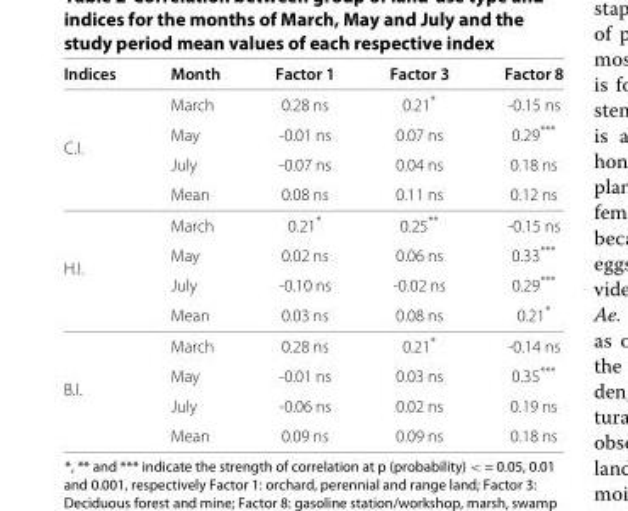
<table><thead><tr><td>Indices</td><td>Month</td><td>Factor 1</td><td>Factor 3</td><td>Factor 8</td></tr></thead><tbody><tr><td rowspan="4">C.I.</td><td>March</td><td>0.28 ns</td><td>0.21*</td><td>-0.15 ns</td></tr><tr><td>May</td><td>-0.01 ns</td><td>0.07 ns</td><td>0.29***</td></tr><tr><td>July</td><td>-0.07 ns</td><td>0.04 ns</td><td>0.18 ns</td></tr><tr><td>Mean</td><td>0.08 ns</td><td>0.11 ns</td><td>0.12 ns</td></tr><tr><td rowspan="4">H.I.</td><td>March</td><td>0.21*</td><td>0.25**</td><td>-0.15 ns</td></tr><tr><td>May</td><td>0.02 ns</td><td>0.06 ns</td><td>0.33***</td></tr><tr><td>July</td><td>-0.10 ns</td><td>-0.02 ns</td><td>0.29***</td></tr><tr><td>Mean</td><td>0.03 ns</td><td>0.08 ns</td><td>0.21*</td></tr><tr><td rowspan="4">B.I.</td><td>March</td><td>0.28 ns</td><td>0.21*</td><td>-0.14 ns</td></tr><tr><td>May</td><td>-0.01 ns</td><td>0.03 ns</td><td>0.35***</td></tr><tr><td>July</td><td>-0.06 ns</td><td>0.02 ns</td><td>0.19 ns</td></tr><tr><td>Mean</td><td>0.09 ns</td><td>0.09 ns</td><td>0.18 ns</td></tr></tbody></table>